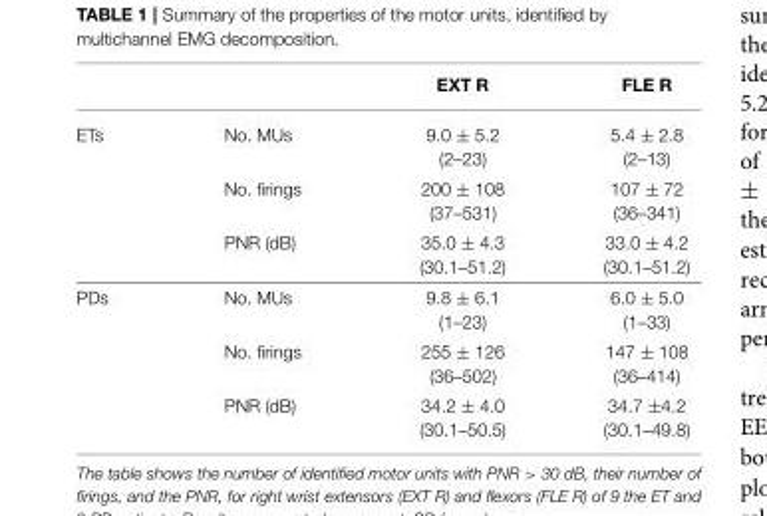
<table><thead><tr><td></td><td></td><td>EXT R</td><td>FLE R</td></tr></thead><tbody><tr><td rowspan="3">ETs</td><td>No. MUs</td><td>9.0 ± 5.2 (2–23)</td><td>5.4 ± 2.8 (2–13)</td></tr><tr><td>No. firings</td><td>200 ± 108 (37–531)</td><td>107 ± 72 (36–341)</td></tr><tr><td>PNR (dB)</td><td>35.0 ± 4.3 (30.1–51.2)</td><td>33.0 ± 4.2 (30.1–51.2)</td></tr><tr><td rowspan="3">PDs</td><td>No. MUs</td><td>9.8 ± 6.1 (1–23)</td><td>6.0 ± 5.0 (1–33)</td></tr><tr><td>No. firings</td><td>255 ± 126 (36–502)</td><td>147 ± 108 (36–414)</td></tr><tr><td>PNR (dB)</td><td>34.2 ± 4.0 (30.1–50.5)</td><td>34.7 ±4.2 (30.1–49.8)</td></tr></tbody></table>